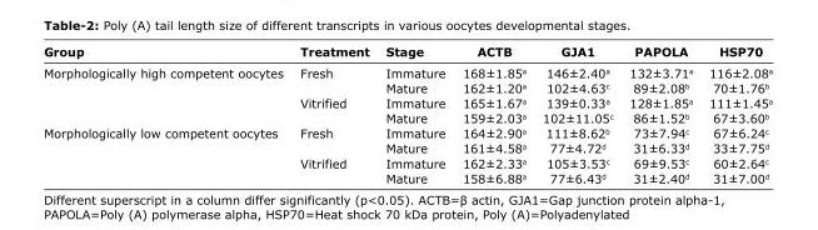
<table><thead><tr><td>Group</td><td>Treatment</td><td>Stage</td><td>ACTB</td><td>GJA1</td><td>PAPOLA</td><td>HSP70</td></tr></thead><tbody><tr><td rowspan="4">Morphologically high competent oocytes</td><td>Fresh</td><td>Immature</td><td>168±1.85<sup>a</sup></td><td>146±2.40<sup>a</sup></td><td>132±3.71<sup>a</sup></td><td>116±2.08<sup>a</sup></td></tr><tr><td></td><td>Mature</td><td>162±1.20<sup>a</sup></td><td>102±4.63<sup>c</sup></td><td>89±2.08<sup>b</sup></td><td>70±1.76<sup>b</sup></td></tr><tr><td>Vitrified</td><td>Immature</td><td>165±1.67<sup>a</sup></td><td>139±0.33<sup>a</sup></td><td>128±1.85<sup>a</sup></td><td>111±1.45<sup>a</sup></td></tr><tr><td></td><td>Mature</td><td>159±2.03<sup>a</sup></td><td>102±11.05<sup>c</sup></td><td>86±1.52<sup>b</sup></td><td>67±3.60<sup>b</sup></td></tr><tr><td rowspan="4">Morphologically low competent oocytes</td><td>Fresh</td><td>Immature</td><td>164±2.90<sup>a</sup></td><td>111±8.62<sup>b</sup></td><td>73±7.94<sup>c</sup></td><td>67±6.24<sup>c</sup></td></tr><tr><td></td><td>Mature</td><td>161±4.58<sup>a</sup></td><td>77±4.72<sup>d</sup></td><td>31±6.33<sup>d</sup></td><td>33±7.75<sup>d</sup></td></tr><tr><td>Vitrified</td><td>Immature</td><td>162±2.33<sup>a</sup></td><td>105±3.53<sup>c</sup></td><td>69±9.53<sup>c</sup></td><td>60±2.64<sup>c</sup></td></tr><tr><td></td><td>Mature</td><td>158±6.88<sup>a</sup></td><td>77±6.43<sup>d</sup></td><td>31±2.40<sup>d</sup></td><td>31±7.00<sup>d</sup></td></tr></tbody></table>